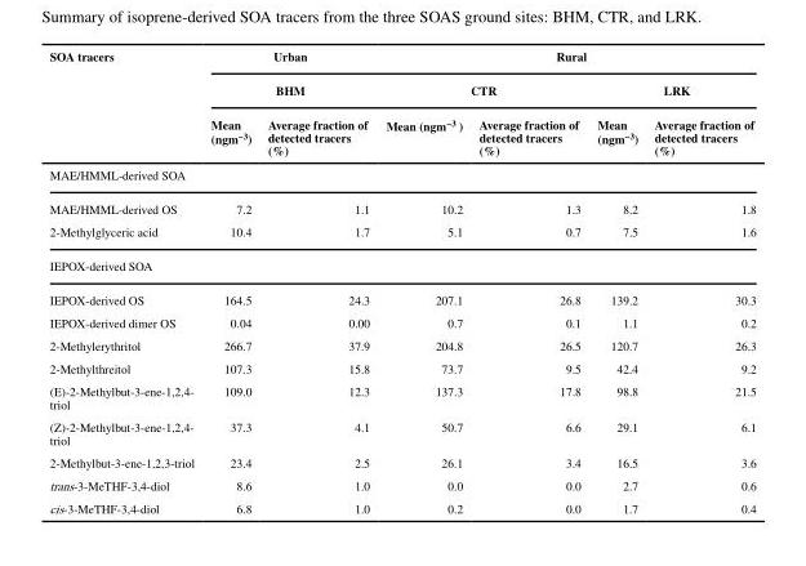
<table><thead><tr><td rowspan="3">SOA tracers</td><td rowspan="2" colspan="2">Urban BHM</td><td colspan="4">Rural</td></tr><tr><td colspan="2">CTR</td><td colspan="2">LRK</td></tr><tr><td>Mean (ngm<sup>−3</sup>)</td><td>Average fraction of detected tracers (%)</td><td>Mean (ngm<sup>−3</sup> )</td><td>Average fraction of detected tracers (%)</td><td>Mean (ngm<sup>−3</sup>)</td><td>Average fraction of detected tracers (%)</td></tr></thead><tbody><tr><td colspan="7">MAE/HMML-derived SOA</td></tr><tr><td>MAE/HMML-derived OS</td><td>7.2</td><td>1.1</td><td>10.2</td><td>1.3</td><td>8.2</td><td>1.8</td></tr><tr><td>2-Methylglyceric acid</td><td>10.4</td><td>1.7</td><td>5.1</td><td>0.7</td><td>7.5</td><td>1.6</td></tr><tr><td colspan="7">IEPOX-derived SOA</td></tr><tr><td>IEPOX-derived OS</td><td>164.5</td><td>24.3</td><td>207.1</td><td>26.8</td><td>139.2</td><td>30.3</td></tr><tr><td>IEPOX-derived dimer OS</td><td>0.04</td><td>0.00</td><td>0.7</td><td>0.1</td><td>1.1</td><td>0.2</td></tr><tr><td>2-Methylerythritol</td><td>266.7</td><td>37.9</td><td>204.8</td><td>26.5</td><td>120.7</td><td>26.3</td></tr><tr><td>2-Methylthreitol</td><td>107.3</td><td>15.8</td><td>73.7</td><td>9.5</td><td>42.4</td><td>9.2</td></tr><tr><td>(E)-2-Methylbut-3-ene-1,2,4- triol</td><td>109.0</td><td>12.3</td><td>137.3</td><td>17.8</td><td>98.8</td><td>21.5</td></tr><tr><td>(Z)-2-Methylbut-3-ene-1,2,4- triol</td><td>37.3</td><td>4.1</td><td>50.7</td><td>6.6</td><td>29.1</td><td>6.1</td></tr><tr><td>2-Methylbut-3-ene-1,2,3-triol</td><td>23.4</td><td>2.5</td><td>26.1</td><td>3.4</td><td>16.5</td><td>3.6</td></tr><tr><td>trans-3-MeTHF-3,4-diol</td><td>8.6</td><td>1.0</td><td>0.0</td><td>0.0</td><td>2.7</td><td>0.6</td></tr><tr><td>cis-3-MeTHF-3,4-diol</td><td>6.8</td><td>1.0</td><td>0.2</td><td>0.0</td><td>1.7</td><td>0.4</td></tr></tbody></table>